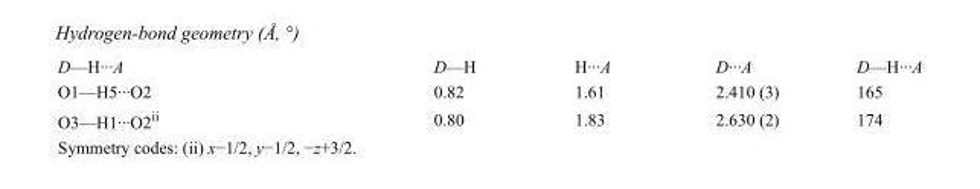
<table><tbody><tr><td>D—H···A</td><td>D—H</td><td>H···A</td><td>D···A</td><td>D—H···A</td></tr><tr><td>O1—H5···O2</td><td>0.82</td><td>1.61</td><td>2.410 (3)</td><td>165</td></tr><tr><td>O3—H1···O2<sup>ii</sup></td><td>0.80</td><td>1.83</td><td>2.630 (2)</td><td>174</td></tr></tbody></table>